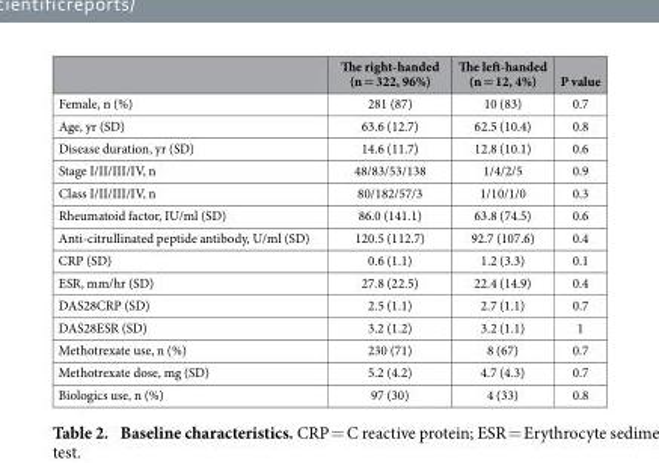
<table><thead><tr><td></td><td>The right-handed (n = 322, 96%)</td><td>The left-handed (n = 12, 4%)</td><td>P value</td></tr></thead><tbody><tr><td>Female, n (%)</td><td>281 (87)</td><td>10 (83)</td><td>0.7</td></tr><tr><td>Age, yr (SD)</td><td>63.6 (12.7)</td><td>62.5 (10.4)</td><td>0.8</td></tr><tr><td>Disease duration, yr (SD)</td><td>14.6 (11.7)</td><td>12.8 (10.1)</td><td>0.6</td></tr><tr><td>Stage I/II/III/IV, n</td><td>48/83/53/138</td><td>1/4/2/5</td><td>0.9</td></tr><tr><td>Class I/II/III/IV, n</td><td>80/182/57/3</td><td>1/10/1/0</td><td>0.3</td></tr><tr><td>Rheumatoid factor, IU/ml (SD)</td><td>86.0 (141.1)</td><td>63.8 (74.5)</td><td>0.6</td></tr><tr><td>Anti-citrullinated peptide antibody, U/ml (SD)</td><td>120.5 (112.7)</td><td>92.7 (107.6)</td><td>0.4</td></tr><tr><td>CRP (SD)</td><td>0.6 (1.1)</td><td>1.2 (3.3)</td><td>0.1</td></tr><tr><td>ESR, mm/hr (SD)</td><td>27.8 (22.5)</td><td>22.4 (14.9)</td><td>0.4</td></tr><tr><td>DAS28CRP (SD)</td><td>2.5 (1.1)</td><td>2.7 (1.1)</td><td>0.7</td></tr><tr><td>DAS28ESR (SD)</td><td>3.2 (1.2)</td><td>3.2 (1.1)</td><td>1</td></tr><tr><td>Methotrexate use, n (%)</td><td>230 (71)</td><td>8 (67)</td><td>0.7</td></tr><tr><td>Methotrexate dose, mg (SD)</td><td>5.2 (4.2)</td><td>4.7 (4.3)</td><td>0.7</td></tr><tr><td>Biologics use, n (%)</td><td>97 (30)</td><td>4 (33)</td><td>0.8</td></tr></tbody></table>